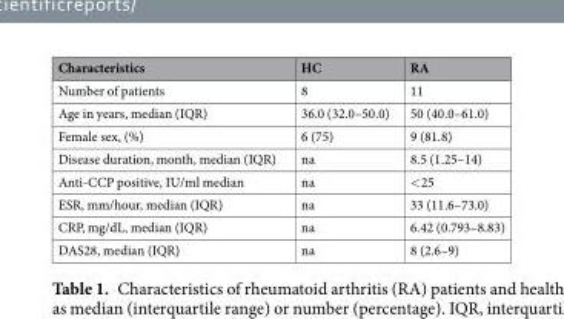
<table><thead><tr><td>Characteristics</td><td>HC</td><td>RA</td></tr></thead><tbody><tr><td>Number of patients</td><td>8</td><td>11</td></tr><tr><td>Age in years, median (IQR)</td><td>36.0 (32.0–50.0)</td><td>50 (40.0–61.0)</td></tr><tr><td>Female sex, (%)</td><td>6 (75)</td><td>9 (81.8)</td></tr><tr><td>Disease duration, month, median (IQR)</td><td>na</td><td>8.5 (1.25–14)</td></tr><tr><td>Anti-CCP positive, IU/ml median</td><td>na</td><td>&lt;25</td></tr><tr><td>ESR, mm/hour, median (IQR)</td><td>na</td><td>33 (11.6–73.0)</td></tr><tr><td>CRP, mg/dL, median (IQR)</td><td>na</td><td>6.42 (0.793–8.83)</td></tr><tr><td>DAS28, median (IQR)</td><td>na</td><td>8 (2.6–9)</td></tr></tbody></table>